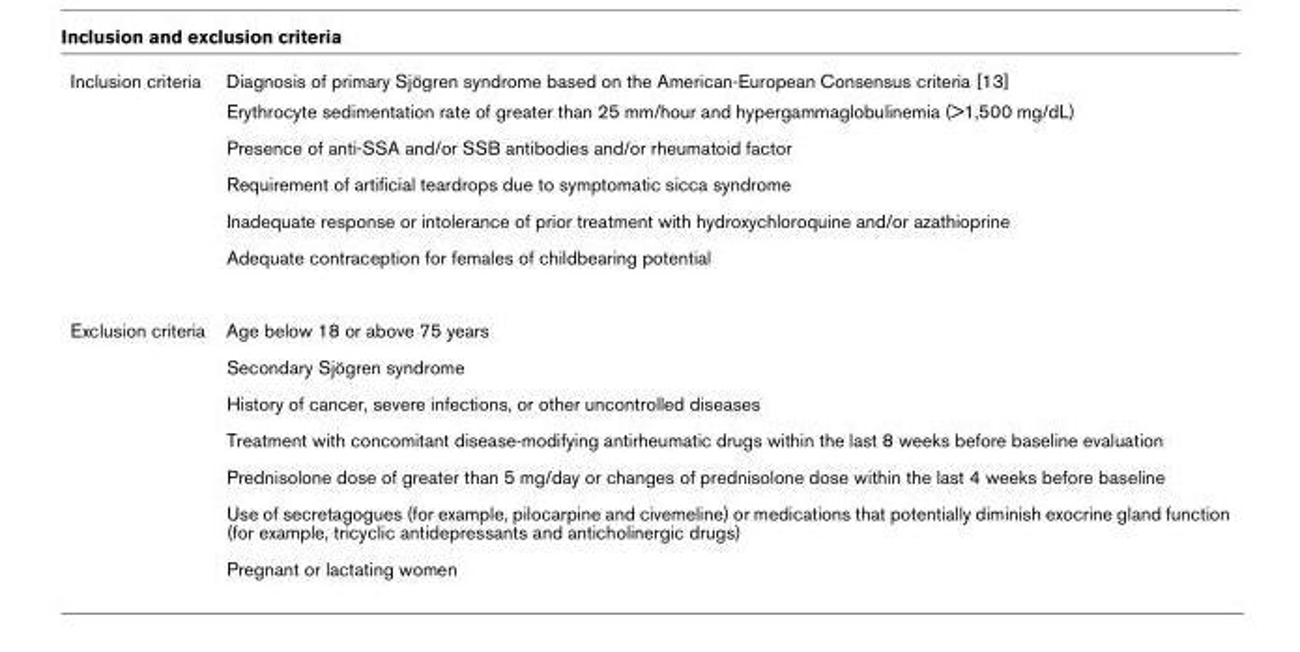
<table><tbody><tr><td rowspan="6">Inclusion criteria</td><td>Diagnosis of primary Sjögren syndrome based on the American-European Consensus criteria [13]</td></tr><tr><td>Erythrocyte sedimentation rate of greater than 25 mm/hour and hypergammaglobulinemia (&gt;1,500 mg/dL)</td></tr><tr><td>Presence of anti-SSA and/or SSB antibodies and/or rheumatoid factor</td></tr><tr><td>Requirement of artificial teardrops due to symptomatic sicca syndrome</td></tr><tr><td>Inadequate response or intolerance of prior treatment with hydroxychloroquine and/or azathioprine</td></tr><tr><td>Adequate contraception for females of childbearing potential</td></tr><tr><td rowspan="7">Exclusion criteria</td><td>Age below 18 or above 75 years</td></tr><tr><td>Secondary Sjögren syndrome</td></tr><tr><td>History of cancer, severe infections, or other uncontrolled diseases</td></tr><tr><td>Treatment with concomitant disease-modifying antirheumatic drugs within the last 8 weeks before baseline evaluation</td></tr><tr><td>Prednisolone dose of greater than 5 mg/day or changes of prednisolone dose within the last 4 weeks before baseline</td></tr><tr><td>Use of secretagogues (for example, pilocarpine and civemeline) or medications that potentially diminish exocrine gland function (for example, tricyclic antidepressants and anticholinergic drugs)</td></tr><tr><td>Pregnant or lactating women</td></tr></tbody></table>